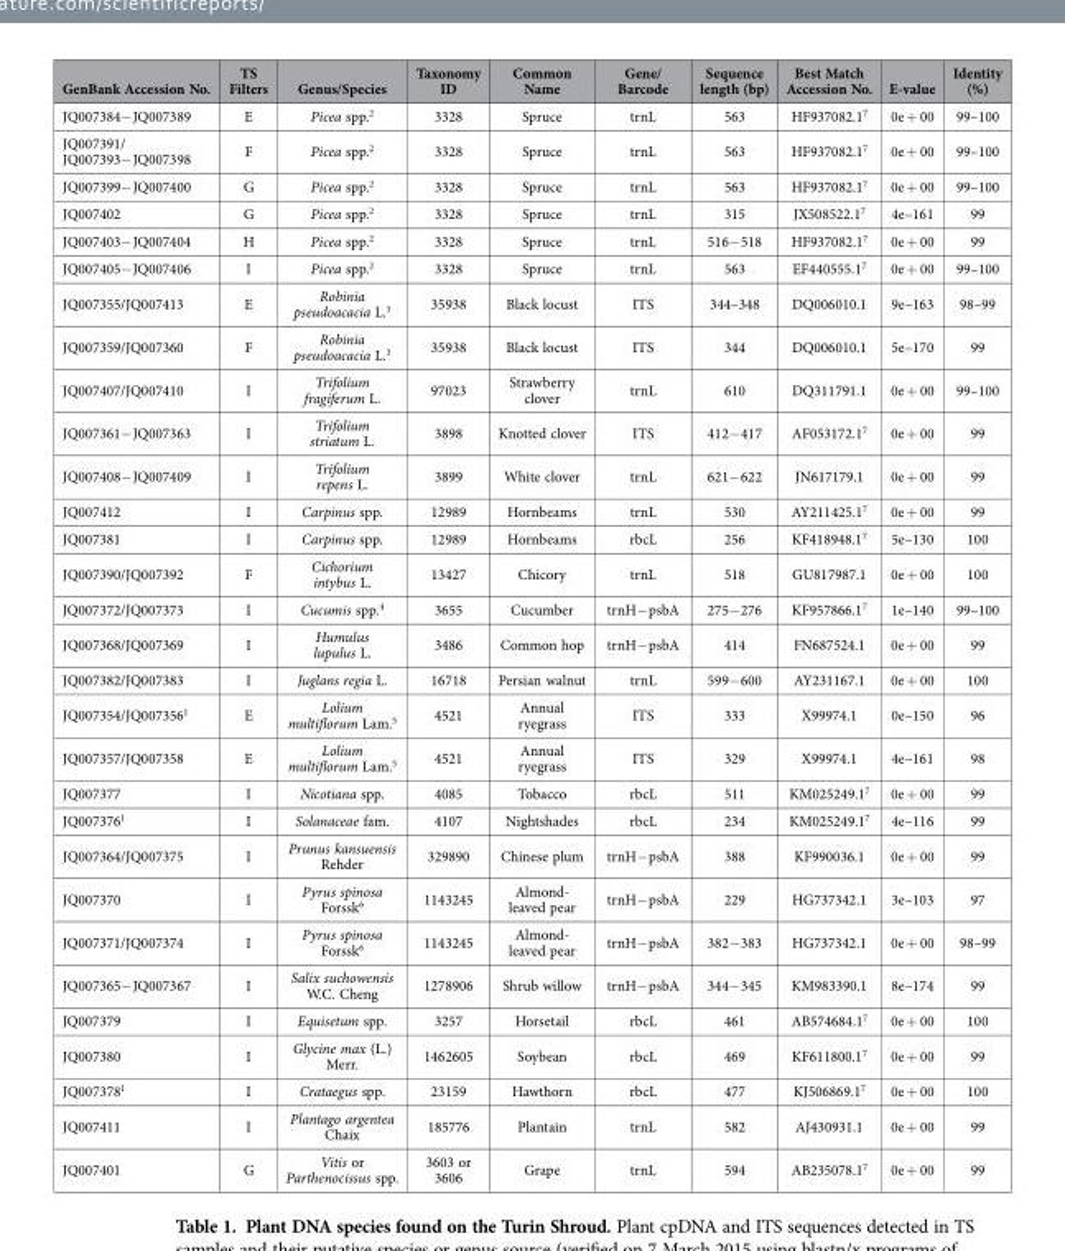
<table><thead><tr><td>GenBank Accession No.</td><td>TS Filters</td><td>Genus/Species</td><td>Taxonomy ID</td><td>Common Name</td><td>Gene/ Barcode</td><td>Sequence length (bp)</td><td>Best Match Accession No.</td><td>E-value</td><td>Identity (%)</td></tr></thead><tbody><tr><td>JQ007384− JQ007389</td><td>E</td><td>Picea spp.<sup>2</sup></td><td>3328</td><td>Spruce</td><td>trnL</td><td>563</td><td>HF937082.1<sup>7</sup></td><td>0e + 00</td><td>99–100</td></tr><tr><td>JQ007391/ JQ007393− JQ007398</td><td>F</td><td>Picea spp.<sup>2</sup></td><td>3328</td><td>Spruce</td><td>trnL</td><td>563</td><td>HF937082.1<sup>7</sup></td><td>0e + 00</td><td>99–100</td></tr><tr><td>JQ007399− JQ007400</td><td>G</td><td>Picea spp.<sup>2</sup></td><td>3328</td><td>Spruce</td><td>trnL</td><td>563</td><td>HF937082.1<sup>7</sup></td><td>0e + 00</td><td>99–100</td></tr><tr><td>JQ007402</td><td>G</td><td>Picea spp.<sup>2</sup></td><td>3328</td><td>Spruce</td><td>trnL</td><td>315</td><td>JX508522.1<sup>7</sup></td><td>4e–161</td><td>99</td></tr><tr><td>JQ007403− JQ007404</td><td>H</td><td>Picea spp.<sup>2</sup></td><td>3328</td><td>Spruce</td><td>trnL</td><td>516− 518</td><td>HF937082.1<sup>7</sup></td><td>0e + 00</td><td>99</td></tr><tr><td>JQ007405− JQ007406</td><td>I</td><td>Picea spp.<sup>2</sup></td><td>3328</td><td>Spruce</td><td>trnL</td><td>563</td><td>EF440555.1<sup>7</sup></td><td>0e + 00</td><td>99–100</td></tr><tr><td>JQ007355/JQ007413</td><td>E</td><td>Robinia pseudoacacia L.<sup>3</sup></td><td>35938</td><td>Black locust</td><td>ITS</td><td>344–348</td><td>DQ006010.1</td><td>9e–163</td><td>98–99</td></tr><tr><td>JQ007359/JQ007360</td><td>F</td><td>Robinia pseudoacacia L.<sup>3</sup></td><td>35938</td><td>Black locust</td><td>ITS</td><td>344</td><td>DQ006010.1</td><td>5e–170</td><td>99</td></tr><tr><td>JQ007407/JQ007410</td><td>I</td><td>Trifolium fragiferum L.</td><td>97023</td><td>Strawberry clover</td><td>trnL</td><td>610</td><td>DQ311791.1</td><td>0e + 00</td><td>99–100</td></tr><tr><td>JQ007361− JQ007363</td><td>I</td><td>Trifolium striatum L.</td><td>3898</td><td>Knotted clover</td><td>ITS</td><td>412− 417</td><td>AF053172.1<sup>7</sup></td><td>0e + 00</td><td>99</td></tr><tr><td>JQ007408− JQ007409</td><td>I</td><td>Trifolium repens L.</td><td>3899</td><td>White clover</td><td>trnL</td><td>621− 622</td><td>JN617179.1</td><td>0e + 00</td><td>99</td></tr><tr><td>JQ007412</td><td>I</td><td>Carpinus spp.</td><td>12989</td><td>Hornbeams</td><td>trnL</td><td>530</td><td>AY211425.1<sup>7</sup></td><td>0e + 00</td><td>99</td></tr><tr><td>JQ007381</td><td>I</td><td>Carpinus spp.</td><td>12989</td><td>Hornbeams</td><td>rbcL</td><td>256</td><td>KF418948.1<sup>7</sup></td><td>5e–130</td><td>100</td></tr><tr><td>JQ007390/JQ007392</td><td>F</td><td>Cichorium intybus L.</td><td>13427</td><td>Chicory</td><td>trnL</td><td>518</td><td>GU817987.1</td><td>0e + 00</td><td>100</td></tr><tr><td>JQ007372/JQ007373</td><td>I</td><td>Cucumis spp.<sup>4</sup></td><td>3655</td><td>Cucumber</td><td>trnH− psbA</td><td>275− 276</td><td>KF957866.1<sup>7</sup></td><td>1e–140</td><td>99–100</td></tr><tr><td>JQ007368/JQ007369</td><td>I</td><td>Humulus lupulus L.</td><td>3486</td><td>Common hop</td><td>trnH− psbA</td><td>414</td><td>FN687524.1</td><td>0e + 00</td><td>99</td></tr><tr><td>JQ007382/JQ007383</td><td>I</td><td>Juglans regia L.</td><td>16718</td><td>Persian walnut</td><td>trnL</td><td>599− 600</td><td>AY231167.1</td><td>0e + 00</td><td>100</td></tr><tr><td>JQ007354/JQ007356<sup>1</sup></td><td>E</td><td>Lolium multiflorum Lam.<sup>5</sup></td><td>4521</td><td>Annual ryegrass</td><td>ITS</td><td>333</td><td>X99974.1</td><td>0e–150</td><td>96</td></tr><tr><td>JQ007357/JQ007358</td><td>E</td><td>Lolium multiflorum Lam.<sup>5</sup></td><td>4521</td><td>Annual ryegrass</td><td>ITS</td><td>329</td><td>X99974.1</td><td>4e–161</td><td>98</td></tr><tr><td>JQ007377</td><td>I</td><td>Nicotiana spp.</td><td>4085</td><td>Tobacco</td><td>rbcL</td><td>511</td><td>KM025249.1<sup>7</sup></td><td>0e + 00</td><td>99</td></tr><tr><td>JQ007376<sup>1</sup></td><td>I</td><td>Solanaceae fam.</td><td>4107</td><td>Nightshades</td><td>rbcL</td><td>234</td><td>KM025249.1<sup>7</sup></td><td>4e–116</td><td>99</td></tr><tr><td>JQ007364/JQ007375</td><td>I</td><td>Prunus kansuensis Rehder</td><td>329890</td><td>Chinese plum</td><td>trnH− psbA</td><td>388</td><td>KF990036.1</td><td>0e + 00</td><td>99</td></tr><tr><td>JQ007370</td><td>I</td><td>Pyrus spinosa Forssk<sup>6</sup></td><td>1143245</td><td>Almond- leaved pear</td><td>trnH− psbA</td><td>229</td><td>HG737342.1</td><td>3e–103</td><td>97</td></tr><tr><td>JQ007371/JQ007374</td><td>I</td><td>Pyrus spinosa Forssk<sup>6</sup></td><td>1143245</td><td>Almond- leaved pear</td><td>trnH− psbA</td><td>382− 383</td><td>HG737342.1</td><td>0e + 00</td><td>98–99</td></tr><tr><td>JQ007365− JQ007367</td><td>I</td><td>Salix suchowensis W.C. Cheng</td><td>1278906</td><td>Shrub willow</td><td>trnH− psbA</td><td>344− 345</td><td>KM983390.1</td><td>8e–174</td><td>99</td></tr><tr><td>JQ007379</td><td>I</td><td>Equisetum spp.</td><td>3257</td><td>Horsetail</td><td>rbcL</td><td>461</td><td>AB574684.1<sup>7</sup></td><td>0e + 00</td><td>100</td></tr><tr><td>JQ007380</td><td>I</td><td>Glycine max (L.) Merr.</td><td>1462605</td><td>Soybean</td><td>rbcL</td><td>469</td><td>KF611800.1<sup>7</sup></td><td>0e + 00</td><td>99</td></tr><tr><td>JQ007378<sup>1</sup></td><td>I</td><td>Crataegus spp.</td><td>23159</td><td>Hawthorn</td><td>rbcL</td><td>477</td><td>KJ506869.1<sup>7</sup></td><td>0e + 00</td><td>100</td></tr><tr><td>JQ007411</td><td>I</td><td>Plantago argentea Chaix</td><td>185776</td><td>Plantain</td><td>trnL</td><td>582</td><td>AJ430931.1</td><td>0e + 00</td><td>99</td></tr><tr><td>JQ007401</td><td>G</td><td>Vitis or Parthenocissus spp.</td><td>3603 or 3606</td><td>Grape</td><td>trnL</td><td>594</td><td>AB235078.1<sup>7</sup></td><td>0e + 00</td><td>99</td></tr></tbody></table>